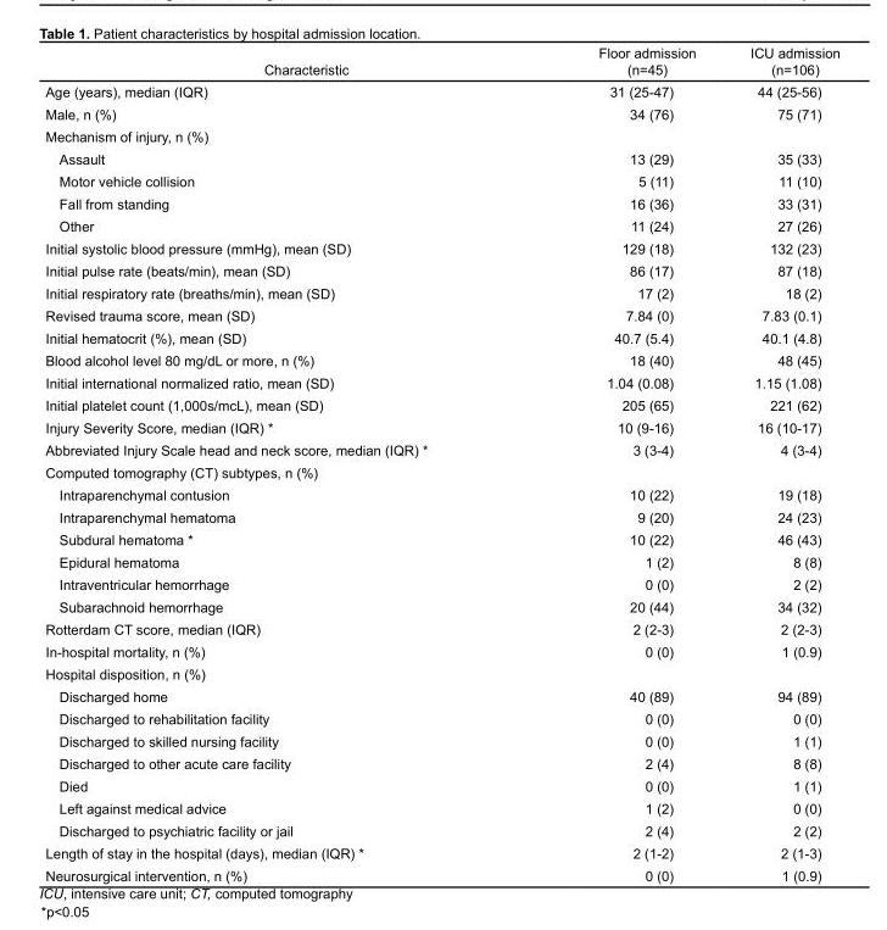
<table><thead><tr><td>Characteristic</td><td>Floor admission (n=45)</td><td>ICU admission (n=106)</td></tr></thead><tbody><tr><td>Age (years), median (IQR)</td><td>31 (25-47)</td><td>44 (25-56)</td></tr><tr><td>Male, n (%)</td><td>34 (76)</td><td>75 (71)</td></tr><tr><td colspan="3">Mechanism of injury, n (%)</td></tr><tr><td>Assault</td><td>13 (29)</td><td>35 (33)</td></tr><tr><td>Motor vehicle collision</td><td>5 (11)</td><td>11 (10)</td></tr><tr><td>Fall from standing</td><td>16 (36)</td><td>33 (31)</td></tr><tr><td>Other</td><td>11 (24)</td><td>27 (26)</td></tr><tr><td>Initial systolic blood pressure (mmHg), mean (SD)</td><td>129 (18)</td><td>132 (23)</td></tr><tr><td>Initial pulse rate (beats/min), mean (SD)</td><td>86 (17)</td><td>87 (18)</td></tr><tr><td>Initial respiratory rate (breaths/min), mean (SD)</td><td>17 (2)</td><td>18 (2)</td></tr><tr><td>Revised trauma score, mean (SD)</td><td>7.84 (0)</td><td>7.83 (0.1)</td></tr><tr><td>Initial hematocrit (%), mean (SD)</td><td>40.7 (5.4)</td><td>40.1 (4.8)</td></tr><tr><td>Blood alcohol level 80 mg/dL or more, n (%)</td><td>18 (40)</td><td>48 (45)</td></tr><tr><td>Initial international normalized ratio, mean (SD)</td><td>1.04 (0.08)</td><td>1.15 (1.08)</td></tr><tr><td>Initial platelet count (1,000s/mcL), mean (SD)</td><td>205 (65)</td><td>221 (62)</td></tr><tr><td>Injury Severity Score, median (IQR) *</td><td>10 (9-16)</td><td>16 (10-17)</td></tr><tr><td>Abbreviated Injury Scale head and neck score, median (IQR) *</td><td>3 (3-4)</td><td>4 (3-4)</td></tr><tr><td colspan="3">Computed tomography (CT) subtypes, n (%)</td></tr><tr><td>Intraparenchymal contusion</td><td>10 (22)</td><td>19 (18)</td></tr><tr><td>Intraparenchymal hematoma</td><td>9 (20)</td><td>24 (23)</td></tr><tr><td>Subdural hematoma *</td><td>10 (22)</td><td>46 (43)</td></tr><tr><td>Epidural hematoma</td><td>1 (2)</td><td>8 (8)</td></tr><tr><td>Intraventricular hemorrhage</td><td>0 (0)</td><td>2 (2)</td></tr><tr><td>Subarachnoid hemorrhage</td><td>20 (44)</td><td>34 (32)</td></tr><tr><td>Rotterdam CT score, median (IQR)</td><td>2 (2-3)</td><td>2 (2-3)</td></tr><tr><td>In-hospital mortality, n (%)</td><td>0 (0)</td><td>1 (0.9)</td></tr><tr><td colspan="3">Hospital disposition, n (%)</td></tr><tr><td>Discharged home</td><td>40 (89)</td><td>94 (89)</td></tr><tr><td>Discharged to rehabilitation facility</td><td>0 (0)</td><td>0 (0)</td></tr><tr><td>Discharged to skilled nursing facility</td><td>0 (0)</td><td>1 (1)</td></tr><tr><td>Discharged to other acute care facility</td><td>2 (4)</td><td>8 (8)</td></tr><tr><td>Died</td><td>0 (0)</td><td>1 (1)</td></tr><tr><td>Left against medical advice</td><td>1 (2)</td><td>0 (0)</td></tr><tr><td>Discharged to psychiatric facility or jail</td><td>2 (4)</td><td>2 (2)</td></tr><tr><td>Length of stay in the hospital (days), median (IQR) *</td><td>2 (1-2)</td><td>2 (1-3)</td></tr><tr><td>Neurosurgical intervention, n (%)</td><td>0 (0)</td><td>1 (0.9)</td></tr></tbody></table>